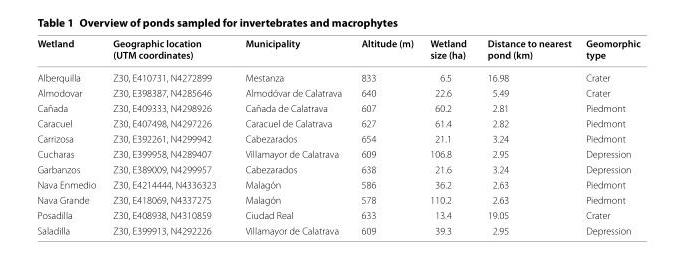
<table><thead><tr><td>Wetland</td><td>Geographic location (UTM coordinates)</td><td>Municipality</td><td>Altitude (m)</td><td>Wetland size (ha)</td><td>Distance to nearest pond (km)</td><td>Geomorphic type</td></tr></thead><tbody><tr><td>Alberquilla</td><td>Z30, E410731, N4272899</td><td>Mestanza</td><td>833</td><td>6.5</td><td>16.98</td><td>Crater</td></tr><tr><td>Almodovar</td><td>Z30, E398387, N4285646</td><td>Almodóvar de Calatrava</td><td>640</td><td>22.6</td><td>5.49</td><td>Crater</td></tr><tr><td>Cañada</td><td>Z30, E409333, N4298926</td><td>Cañada de Calatrava</td><td>607</td><td>60.2</td><td>2.81</td><td>Piedmont</td></tr><tr><td>Caracuel</td><td>Z30, E407498, N4297226</td><td>Caracuel de Calatrava</td><td>627</td><td>61.4</td><td>2.82</td><td>Piedmont</td></tr><tr><td>Carrizosa</td><td>Z30, E392261, N4299942</td><td>Cabezarados</td><td>654</td><td>21.1</td><td>3.24</td><td>Piedmont</td></tr><tr><td>Cucharas</td><td>Z30, E399958, N4289407</td><td>Villamayor de Calatrava</td><td>609</td><td>106.8</td><td>2.95</td><td>Depression</td></tr><tr><td>Garbanzos</td><td>Z30, E389009, N4299957</td><td>Cabezarados</td><td>638</td><td>21.6</td><td>3.24</td><td>Depression</td></tr><tr><td>Nava Enmedio</td><td>Z30, E4214444, N4336323</td><td>Malagón</td><td>586</td><td>36.2</td><td>2.63</td><td>Piedmont</td></tr><tr><td>Nava Grande</td><td>Z30, E418069, N4337275</td><td>Malagón</td><td>578</td><td>110.2</td><td>2.63</td><td>Piedmont</td></tr><tr><td>Posadilla</td><td>Z30, E408938, N4310859</td><td>Ciudad Real</td><td>633</td><td>13.4</td><td>19.05</td><td>Crater</td></tr><tr><td>Saladilla</td><td>Z30, E399913, N4292226</td><td>Villamayor de Calatrava</td><td>609</td><td>39.3</td><td>2.95</td><td>Depression</td></tr></tbody></table>